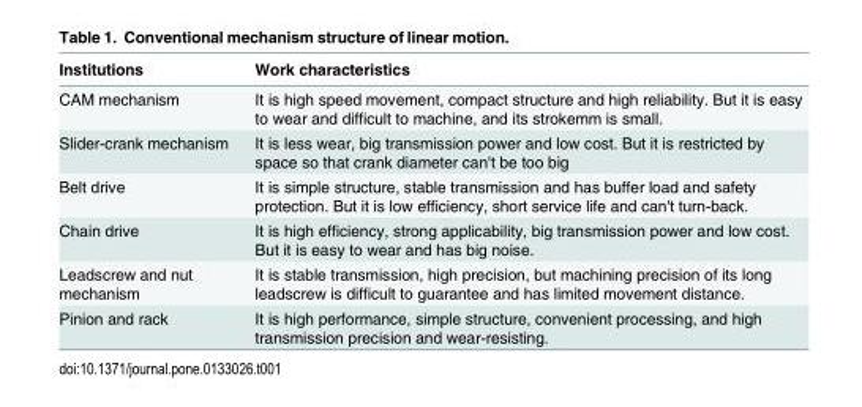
<table><thead><tr><td>Institutions</td><td>Work characteristics</td></tr></thead><tbody><tr><td>CAM mechanism</td><td>It is high speed movement, compact structure and high reliability. But it is easy to wear and difficult to machine, and its strokemm is small.</td></tr><tr><td>Slider-crank mechanism</td><td>It is less wear, big transmission power and low cost. But it is restricted by space so that crank diameter can&#x27;t be too big</td></tr><tr><td>Belt drive</td><td>It is simple structure, stable transmission and has buffer load and safety protection. But it is low efficiency, short service life and can&#x27;t turn-back.</td></tr><tr><td>Chain drive</td><td>It is high efficiency, strong applicability, big transmission power and low cost. But it is easy to wear and has big noise.</td></tr><tr><td>Leadscrew and nut mechanism</td><td>It is stable transmission, high precision, but machining precision of its long leadscrew is difficult to guarantee and has limited movement distance.</td></tr><tr><td>Pinion and rack</td><td>It is high performance, simple structure, convenient processing, and high transmission precision and wear-resisting.</td></tr></tbody></table>